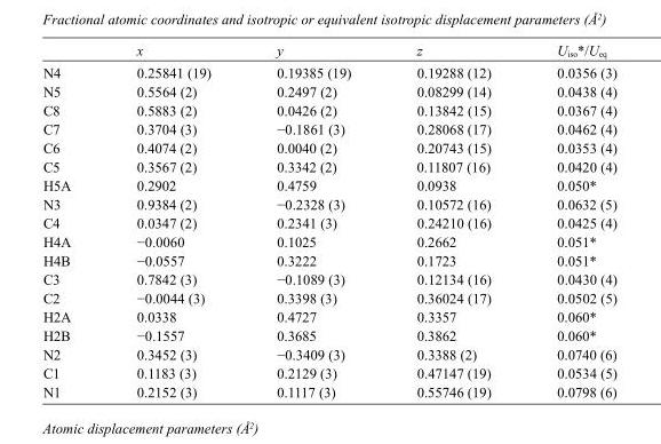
<table><thead><tr><td></td><td>x</td><td>y</td><td>z</td><td>U<sub>iso</sub>*/U<sub>eq</sub></td></tr></thead><tbody><tr><td>N4</td><td>0.25841 (19)</td><td>0.19385 (19)</td><td>0.19288 (12)</td><td>0.0356 (3)</td></tr><tr><td>N5</td><td>0.5564 (2)</td><td>0.2497 (2)</td><td>0.08299 (14)</td><td>0.0438 (4)</td></tr><tr><td>C8</td><td>0.5883 (2)</td><td>0.0426 (2)</td><td>0.13842 (15)</td><td>0.0367 (4)</td></tr><tr><td>C7</td><td>0.3704 (3)</td><td>−0.1861 (3)</td><td>0.28068 (17)</td><td>0.0462 (4)</td></tr><tr><td>C6</td><td>0.4074 (2)</td><td>0.0040 (2)</td><td>0.20743 (15)</td><td>0.0353 (4)</td></tr><tr><td>C5</td><td>0.3567 (2)</td><td>0.3342 (2)</td><td>0.11807 (16)</td><td>0.0420 (4)</td></tr><tr><td>H5A</td><td>0.2902</td><td>0.4759</td><td>0.0938</td><td>0.050*</td></tr><tr><td>N3</td><td>0.9384 (2)</td><td>−0.2328 (3)</td><td>0.10572 (16)</td><td>0.0632 (5)</td></tr><tr><td>C4</td><td>0.0347 (2)</td><td>0.2341 (3)</td><td>0.24210 (16)</td><td>0.0425 (4)</td></tr><tr><td>H4A</td><td>−0.0060</td><td>0.1025</td><td>0.2662</td><td>0.051*</td></tr><tr><td>H4B</td><td>−0.0557</td><td>0.3222</td><td>0.1723</td><td>0.051*</td></tr><tr><td>C3</td><td>0.7842 (3)</td><td>−0.1089 (3)</td><td>0.12134 (16)</td><td>0.0430 (4)</td></tr><tr><td>C2</td><td>−0.0044 (3)</td><td>0.3398 (3)</td><td>0.36024 (17)</td><td>0.0502 (5)</td></tr><tr><td>H2A</td><td>0.0338</td><td>0.4727</td><td>0.3357</td><td>0.060*</td></tr><tr><td>H2B</td><td>−0.1557</td><td>0.3685</td><td>0.3862</td><td>0.060*</td></tr><tr><td>N2</td><td>0.3452 (3)</td><td>−0.3409 (3)</td><td>0.3388 (2)</td><td>0.0740 (6)</td></tr><tr><td>C1</td><td>0.1183 (3)</td><td>0.2129 (3)</td><td>0.47147 (19)</td><td>0.0534 (5)</td></tr><tr><td>N1</td><td>0.2152 (3)</td><td>0.1117 (3)</td><td>0.55746 (19)</td><td>0.0798 (6)</td></tr></tbody></table>